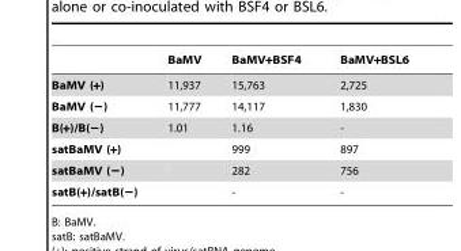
<table><thead><tr><td></td><td>BaMV</td><td>BaMV+BSF4</td><td>BaMV+BSL6</td></tr></thead><tbody><tr><td>BaMV (+)</td><td>11,937</td><td>15,763</td><td>2,725</td></tr><tr><td>BaMV (−)</td><td>11,777</td><td>14,117</td><td>1,830</td></tr><tr><td>B(+)/B(−)</td><td>1.01</td><td>1.16</td><td>-</td></tr><tr><td>satBaMV (+)</td><td></td><td>999</td><td>897</td></tr><tr><td>satBaMV (−)</td><td></td><td>282</td><td>756</td></tr><tr><td>satB(+)/satB(−)</td><td></td><td>-</td><td>-</td></tr></tbody></table>